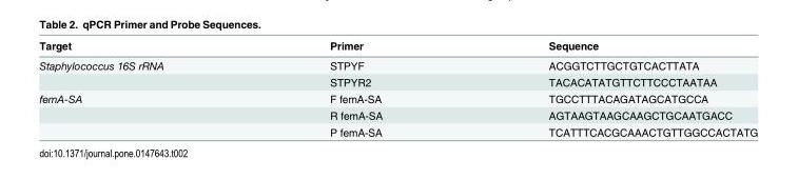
<table><thead><tr><td>Target</td><td>Primer</td><td>Sequence</td></tr></thead><tbody><tr><td rowspan="2">Staphylococcus 16S rRNA</td><td>STPYF</td><td>ACGGTCTTGCTGTCACTTATA</td></tr><tr><td>STPYR2</td><td>TACACATATGTTCTTCCCTAATAA</td></tr><tr><td rowspan="3">femA-SA</td><td>F femA-SA</td><td>TGCCTTTACAGATAGCATGCCA</td></tr><tr><td>R femA-SA</td><td>AGTAAGTAAGCAAGCTGCAATGACC</td></tr><tr><td>P femA-SA</td><td>TCATTTCACGCAAACTGTTGGCCACTATG</td></tr></tbody></table>